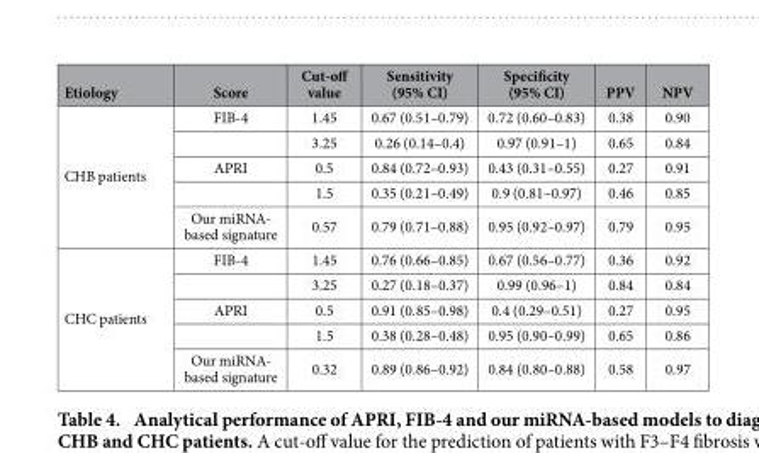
<table><thead><tr><td>Etiology</td><td>Score</td><td>Cut-off value</td><td>Sensitivity (95% CI)</td><td>Specificity (95% CI)</td><td>PPV</td><td>NPV</td></tr></thead><tbody><tr><td rowspan="5">CHB patients</td><td>FIB-4</td><td>1.45</td><td>0.67 (0.51–0.79)</td><td>0.72 (0.60–0.83)</td><td>0.38</td><td>0.90</td></tr><tr><td></td><td>3.25</td><td>0.26 (0.14–0.4)</td><td>0.97 (0.91–1)</td><td>0.65</td><td>0.84</td></tr><tr><td>APRI</td><td>0.5</td><td>0.84 (0.72–0.93)</td><td>0.43 (0.31–0.55)</td><td>0.27</td><td>0.91</td></tr><tr><td></td><td>1.5</td><td>0.35 (0.21–0.49)</td><td>0.9 (0.81–0.97)</td><td>0.46</td><td>0.85</td></tr><tr><td>Our miRNA- based signature</td><td>0.57</td><td>0.79 (0.71–0.88)</td><td>0.95 (0.92–0.97)</td><td>0.79</td><td>0.95</td></tr><tr><td rowspan="5">CHC patients</td><td>FIB-4</td><td>1.45</td><td>0.76 (0.66–0.85)</td><td>0.67 (0.56–0.77)</td><td>0.36</td><td>0.92</td></tr><tr><td></td><td>3.25</td><td>0.27 (0.18–0.37)</td><td>0.99 (0.96–1)</td><td>0.84</td><td>0.84</td></tr><tr><td>APRI</td><td>0.5</td><td>0.91 (0.85–0.98)</td><td>0.4 (0.29–0.51)</td><td>0.27</td><td>0.95</td></tr><tr><td></td><td>1.5</td><td>0.38 (0.28–0.48)</td><td>0.95 (0.90–0.99)</td><td>0.65</td><td>0.86</td></tr><tr><td>Our miRNA- based signature</td><td>0.32</td><td>0.89 (0.86–0.92)</td><td>0.84 (0.80–0.88)</td><td>0.58</td><td>0.97</td></tr></tbody></table>